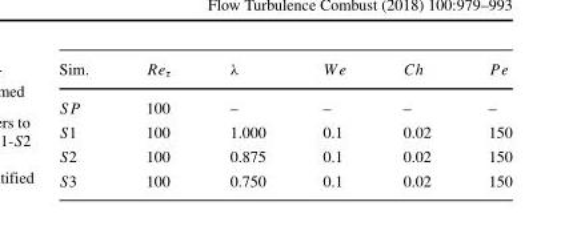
<table><thead><tr><td>Sim.</td><td>Re<sub>τ</sub></td><td>λ</td><td>We</td><td>Ch</td><td>Pe</td></tr></thead><tbody><tr><td>SP</td><td>100</td><td>–</td><td>–</td><td>–</td><td>–</td></tr><tr><td>S1</td><td>100</td><td>1.000</td><td>0.1</td><td>0.02</td><td>150</td></tr><tr><td>S2</td><td>100</td><td>0.875</td><td>0.1</td><td>0.02</td><td>150</td></tr><tr><td>S3</td><td>100</td><td>0.750</td><td>0.1</td><td>0.02</td><td>150</td></tr></tbody></table>